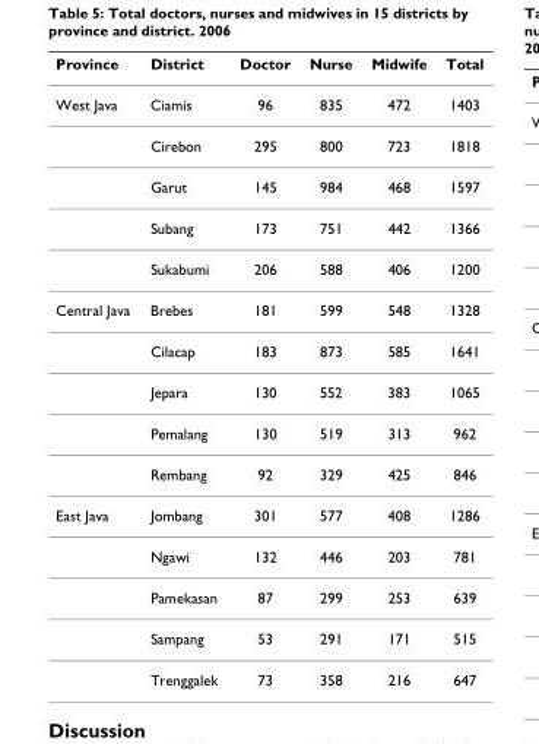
<table><thead><tr><td>Province</td><td>District</td><td>Doctor</td><td>Nurse</td><td>Midwife</td><td>Total</td></tr></thead><tbody><tr><td rowspan="5">West Java</td><td>Ciamis</td><td>96</td><td>835</td><td>472</td><td>1403</td></tr><tr><td>Cirebon</td><td>295</td><td>800</td><td>723</td><td>1818</td></tr><tr><td>Garut</td><td>145</td><td>984</td><td>468</td><td>1597</td></tr><tr><td>Subang</td><td>173</td><td>751</td><td>442</td><td>1366</td></tr><tr><td>Sukabumi</td><td>206</td><td>588</td><td>406</td><td>1200</td></tr><tr><td rowspan="5">Central Java</td><td>Brebes</td><td>181</td><td>599</td><td>548</td><td>1328</td></tr><tr><td>Cilacap</td><td>183</td><td>873</td><td>585</td><td>1641</td></tr><tr><td>Jepara</td><td>130</td><td>552</td><td>383</td><td>1065</td></tr><tr><td>Pemalang</td><td>130</td><td>519</td><td>313</td><td>962</td></tr><tr><td>Rembang</td><td>92</td><td>329</td><td>425</td><td>846</td></tr><tr><td rowspan="5">East Java</td><td>Jombang</td><td>301</td><td>577</td><td>408</td><td>1286</td></tr><tr><td>Ngawi</td><td>132</td><td>446</td><td>203</td><td>781</td></tr><tr><td>Pamekasan</td><td>87</td><td>299</td><td>253</td><td>639</td></tr><tr><td>Sampang</td><td>53</td><td>291</td><td>171</td><td>515</td></tr><tr><td>Trenggalek</td><td>73</td><td>358</td><td>216</td><td>647</td></tr></tbody></table>